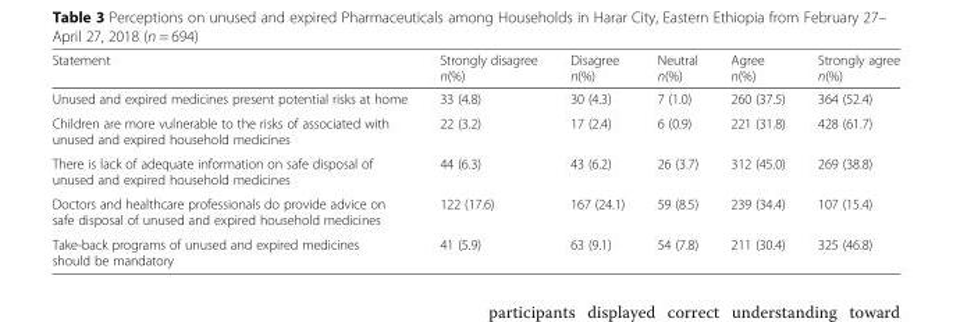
<table><thead><tr><td>Statement</td><td>Strongly disagree n(%)</td><td>Disagree n(%)</td><td>Neutral n(%)</td><td>Agree n(%)</td><td>Strongly agree n(%)</td></tr></thead><tbody><tr><td>Unused and expired medicines present potential risks at home</td><td>33 (4.8)</td><td>30 (4.3)</td><td>7 (1.0)</td><td>260 (37.5)</td><td>364 (52.4)</td></tr><tr><td>Children are more vulnerable to the risks of associated with unused and expired household medicines</td><td>22 (3.2)</td><td>17 (2.4)</td><td>6 (0.9)</td><td>221 (31.8)</td><td>428 (61.7)</td></tr><tr><td>There is lack of adequate information on safe disposal of unused and expired household medicines</td><td>44 (6.3)</td><td>43 (6.2)</td><td>26 (3.7)</td><td>312 (45.0)</td><td>269 (38.8)</td></tr><tr><td>Doctors and healthcare professionals do provide advice on safe disposal of unused and expired household medicines</td><td>122 (17.6)</td><td>167 (24.1)</td><td>59 (8.5)</td><td>239 (34.4)</td><td>107 (15.4)</td></tr><tr><td>Take-back programs of unused and expired medicines should be mandatory</td><td>41 (5.9)</td><td>63 (9.1)</td><td>54 (7.8)</td><td>211 (30.4)</td><td>325 (46.8)</td></tr></tbody></table>